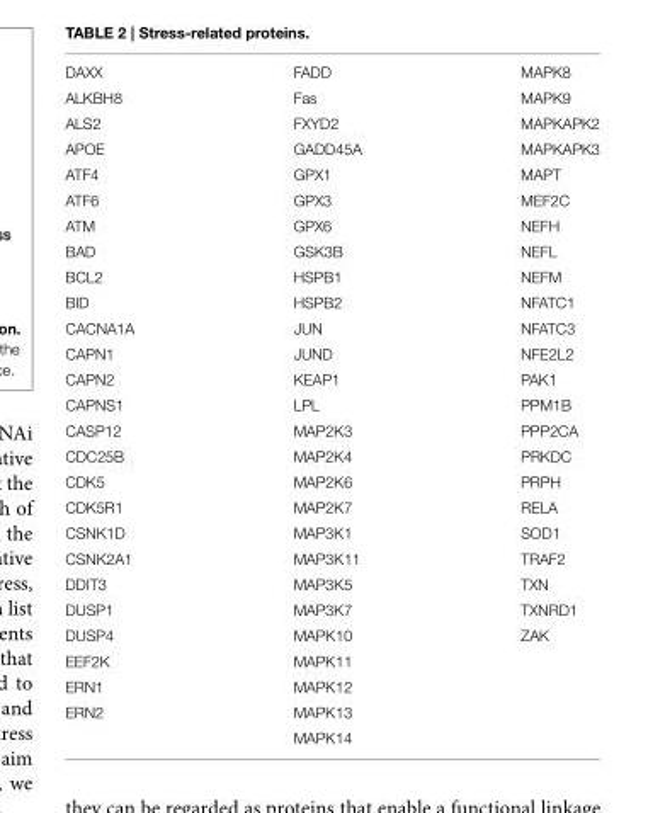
<table><tbody><tr><td>DAXX</td><td>FADD</td><td>MAPK8</td></tr><tr><td>ALKBH8</td><td>Fas</td><td>MAPK9</td></tr><tr><td>ALS2</td><td>FXYD2</td><td>MAPKAPK2</td></tr><tr><td>APOE</td><td>GADD45A</td><td>MAPKAPK3</td></tr><tr><td>ATF4</td><td>GPX1</td><td>MAPT</td></tr><tr><td>ATF6</td><td>GPX3</td><td>MEF2C</td></tr><tr><td>ATM</td><td>GPX6</td><td>NEFH</td></tr><tr><td>BAD</td><td>GSK3B</td><td>NEFL</td></tr><tr><td>BCL2</td><td>HSPB1</td><td>NEFM</td></tr><tr><td>BID</td><td>HSPB2</td><td>NFATC1</td></tr><tr><td>CACNA1A</td><td>JUN</td><td>NFATC3</td></tr><tr><td>CAPN1</td><td>JUND</td><td>NFE2L2</td></tr><tr><td>CAPN2</td><td>KEAP1</td><td>PAK1</td></tr><tr><td>CAPNS1</td><td>LPL</td><td>PPM1B</td></tr><tr><td>CASP12</td><td>MAP2K3</td><td>PPP2CA</td></tr><tr><td>CDC25B</td><td>MAP2K4</td><td>PRKDC</td></tr><tr><td>CDK5</td><td>MAP2K6</td><td>PRPH</td></tr><tr><td>CDK5R1</td><td>MAP2K7</td><td>RELA</td></tr><tr><td>CSNK1D</td><td>MAP3K1</td><td>SOD1</td></tr><tr><td>CSNK2A1</td><td>MAP3K11</td><td>TRAF2</td></tr><tr><td>DDIT3</td><td>MAP3K5</td><td>TXN</td></tr><tr><td>DUSP1</td><td>MAP3K7</td><td>TXNRD1</td></tr><tr><td>DUSP4</td><td>MAPK10</td><td>ZAK</td></tr><tr><td>EEF2K</td><td>MAPK11</td><td></td></tr><tr><td>ERN1</td><td>MAPK12</td><td></td></tr><tr><td rowspan="2">ERN2</td><td>MAPK13</td><td></td></tr><tr><td>MAPK14</td><td></td></tr></tbody></table>